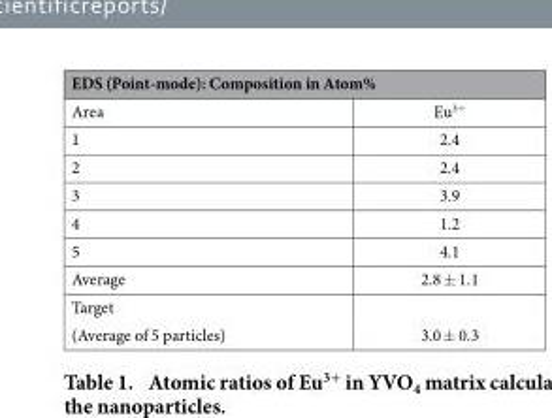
<table><thead><tr><td colspan="2">EDS (Point-mode): Composition in Atom%</td></tr><tr><td>Area</td><td>Eu<sup>3+</sup></td></tr></thead><tbody><tr><td>1</td><td>2.4</td></tr><tr><td>2</td><td>2.4</td></tr><tr><td>3</td><td>3.9</td></tr><tr><td>4</td><td>1.2</td></tr><tr><td>5</td><td>4.1</td></tr><tr><td>Average</td><td>2.8 ± 1.1</td></tr><tr><td>Target (Average of 5 particles)</td><td>3.0 ± 0.3</td></tr></tbody></table>